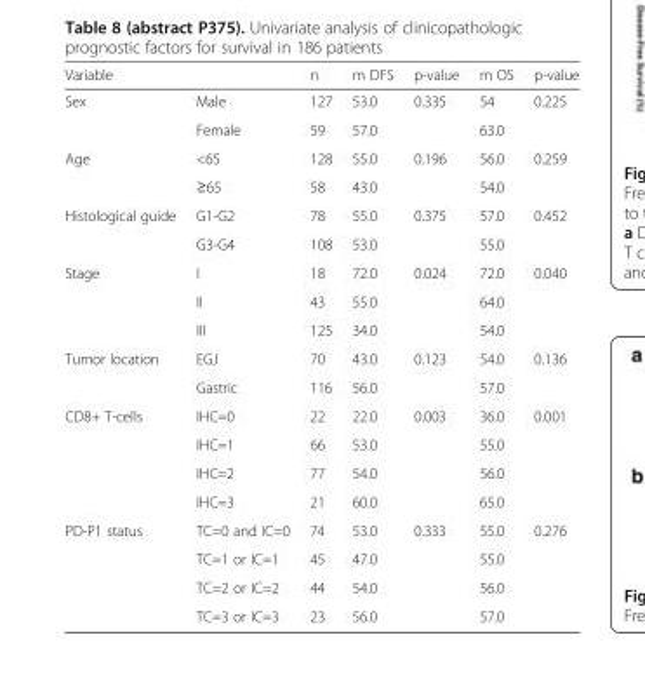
<table><thead><tr><td>Variable</td><td></td><td>n</td><td>m DFS</td><td>p-value</td><td>m OS</td><td>p-value</td></tr></thead><tbody><tr><td rowspan="2">Sex</td><td>Male</td><td>127</td><td>53.0</td><td>0.335</td><td>54</td><td>0.225</td></tr><tr><td>Female</td><td>59</td><td>57.0</td><td></td><td>63.0</td><td></td></tr><tr><td rowspan="2">Age</td><td>&lt;65</td><td>128</td><td>55.0</td><td>0.196</td><td>56.0</td><td>0.259</td></tr><tr><td>≥65</td><td>58</td><td>43.0</td><td></td><td>54.0</td><td></td></tr><tr><td rowspan="2">Histological guide</td><td>G1-G2</td><td>78</td><td>55.0</td><td>0.375</td><td>57.0</td><td>0.452</td></tr><tr><td>G3-G4</td><td>108</td><td>53.0</td><td></td><td>55.0</td><td></td></tr><tr><td rowspan="3">Stage</td><td>I</td><td>18</td><td>72.0</td><td>0.024</td><td>72.0</td><td>0.040</td></tr><tr><td>II</td><td>43</td><td>55.0</td><td></td><td>64.0</td><td></td></tr><tr><td>III</td><td>125</td><td>34.0</td><td></td><td>54.0</td><td></td></tr><tr><td rowspan="2">Tumor location</td><td>EGJ</td><td>70</td><td>43.0</td><td>0.123</td><td>54.0</td><td>0.136</td></tr><tr><td>Gastric</td><td>116</td><td>56.0</td><td></td><td>57.0</td><td></td></tr><tr><td rowspan="4">CD8+ T-cells</td><td>IHC=0</td><td>22</td><td>22.0</td><td>0.003</td><td>36.0</td><td>0.001</td></tr><tr><td>IHC=1</td><td>66</td><td>53.0</td><td></td><td>55.0</td><td></td></tr><tr><td>IHC=2</td><td>77</td><td>54.0</td><td></td><td>56.0</td><td></td></tr><tr><td>IHC=3</td><td>21</td><td>60.0</td><td></td><td>65.0</td><td></td></tr><tr><td rowspan="4">PD-P1 status</td><td>TC=0 and IC=0</td><td>74</td><td>53.0</td><td>0.333</td><td>55.0</td><td>0.276</td></tr><tr><td>TC=1 or IC=1</td><td>45</td><td>47.0</td><td></td><td>55.0</td><td></td></tr><tr><td>TC=2 or IC=2</td><td>44</td><td>54.0</td><td></td><td>56.0</td><td></td></tr><tr><td>TC=3 or IC=3</td><td>23</td><td>56.0</td><td></td><td>57.0</td><td></td></tr></tbody></table>